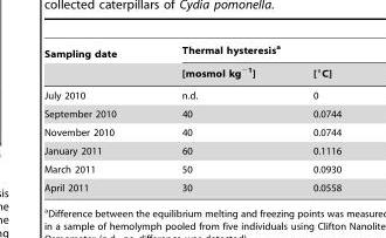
<table><thead><tr><td rowspan="2">Sampling date</td><td colspan="2">Thermal hysteresis<sup>a</sup></td></tr><tr><td>[mosmol kg<sup>−1</sup>]</td><td>[°C]</td></tr></thead><tbody><tr><td>July 2010</td><td>n.d.</td><td>0</td></tr><tr><td>September 2010</td><td>40</td><td>0.0744</td></tr><tr><td>November 2010</td><td>40</td><td>0.0744</td></tr><tr><td>January 2011</td><td>60</td><td>0.1116</td></tr><tr><td>March 2011</td><td>50</td><td>0.0930</td></tr><tr><td>April 2011</td><td>30</td><td>0.0558</td></tr></tbody></table>